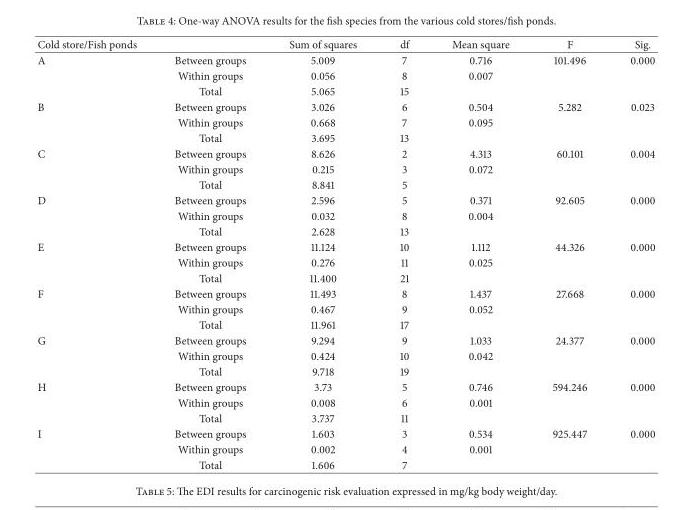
<table><thead><tr><td>Cold store/Fish ponds</td><td></td><td>Sum of squares</td><td>df</td><td>Mean square</td><td>F</td><td>Sig.</td></tr></thead><tbody><tr><td rowspan="3">A</td><td>Between groups</td><td>5.009</td><td>7</td><td>0.716</td><td>101.496</td><td>0.000</td></tr><tr><td>Within groups</td><td>0.056</td><td>8</td><td>0.007</td><td></td><td></td></tr><tr><td>Total</td><td>5.065</td><td>15</td><td></td><td></td><td></td></tr><tr><td rowspan="3">B</td><td>Between groups</td><td>3.026</td><td>6</td><td>0.504</td><td>5.282</td><td>0.023</td></tr><tr><td>Within groups</td><td>0.668</td><td>7</td><td>0.095</td><td></td><td></td></tr><tr><td>Total</td><td>3.695</td><td>13</td><td></td><td></td><td></td></tr><tr><td rowspan="3">C</td><td>Between groups</td><td>8.626</td><td>2</td><td>4.313</td><td>60.101</td><td>0.004</td></tr><tr><td>Within groups</td><td>0.215</td><td>3</td><td>0.072</td><td></td><td></td></tr><tr><td>Total</td><td>8.841</td><td>5</td><td></td><td></td><td></td></tr><tr><td rowspan="3">D</td><td>Between groups</td><td>2.596</td><td>5</td><td>0.371</td><td>92.605</td><td>0.000</td></tr><tr><td>Within groups</td><td>0.032</td><td>8</td><td>0.004</td><td></td><td></td></tr><tr><td>Total</td><td>2.628</td><td>13</td><td></td><td></td><td></td></tr><tr><td rowspan="3">E</td><td>Between groups</td><td>11.124</td><td>10</td><td>1.112</td><td>44.326</td><td>0.000</td></tr><tr><td>Within groups</td><td>0.276</td><td>11</td><td>0.025</td><td></td><td></td></tr><tr><td>Total</td><td>11.400</td><td>21</td><td></td><td></td><td></td></tr><tr><td rowspan="3">F</td><td>Between groups</td><td>11.493</td><td>8</td><td>1.437</td><td>27.668</td><td>0.000</td></tr><tr><td>Within groups</td><td>0.467</td><td>9</td><td>0.052</td><td></td><td></td></tr><tr><td>Total</td><td>11.961</td><td>17</td><td></td><td></td><td></td></tr><tr><td rowspan="3">G</td><td>Between groups</td><td>9.294</td><td>9</td><td>1.033</td><td>24.377</td><td>0.000</td></tr><tr><td>Within groups</td><td>0.424</td><td>10</td><td>0.042</td><td></td><td></td></tr><tr><td>Total</td><td>9.718</td><td>19</td><td></td><td></td><td></td></tr><tr><td rowspan="3">H</td><td>Between groups</td><td>3.73</td><td>5</td><td>0.746</td><td>594.246</td><td>0.000</td></tr><tr><td>Within groups</td><td>0.008</td><td>6</td><td>0.001</td><td></td><td></td></tr><tr><td>Total</td><td>3.737</td><td>11</td><td></td><td></td><td></td></tr><tr><td rowspan="3">I</td><td>Between groups</td><td>1.603</td><td>3</td><td>0.534</td><td>925.447</td><td>0.000</td></tr><tr><td>Within groups</td><td>0.002</td><td>4</td><td>0.001</td><td></td><td></td></tr><tr><td>Total</td><td>1.606</td><td>7</td><td></td><td></td><td></td></tr></tbody></table>